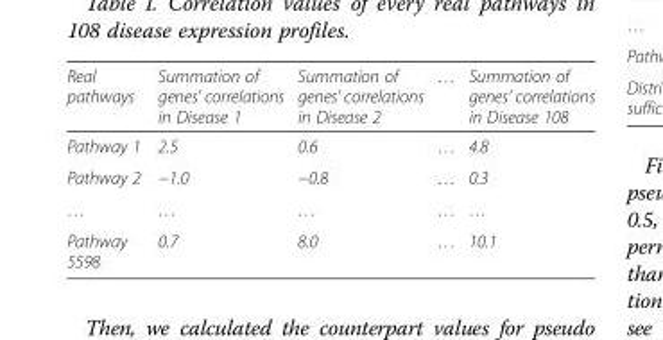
<table><thead><tr><td>Real pathways</td><td>Summation of genes’ correlations in Disease 1</td><td>Summation of genes’ correlations in Disease 2</td><td>…</td><td>Summation of genes’ correlations in Disease 108</td></tr></thead><tbody><tr><td>Pathway 1</td><td>2.5</td><td>0.6</td><td>…</td><td>4.8</td></tr><tr><td>Pathway 2</td><td>−1.0</td><td>−0.8</td><td>…</td><td>0.3</td></tr><tr><td>…</td><td>…</td><td>…</td><td>…</td><td>…</td></tr><tr><td>Pathway 5598</td><td>0.7</td><td>8.0</td><td>…</td><td>10.1</td></tr></tbody></table>